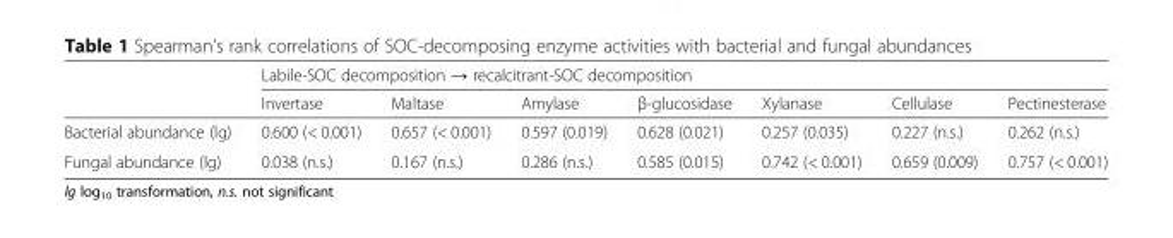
<table><thead><tr><td rowspan="2"></td><td colspan="7">Labile-SOC decomposition → recalcitrant-SOC decomposition</td></tr><tr><td>Invertase</td><td>Maltase</td><td>Amylase</td><td>β-glucosidase</td><td>Xylanase</td><td>Cellulase</td><td>Pectinesterase</td></tr></thead><tbody><tr><td>Bacterial abundance (lg)</td><td>0.600 (&lt; 0.001)</td><td>0.657 (&lt; 0.001)</td><td>0.597 (0.019)</td><td>0.628 (0.021)</td><td>0.257 (0.035)</td><td>0.227 (n.s.)</td><td>0.262 (n.s.)</td></tr><tr><td>Fungal abundance (lg)</td><td>0.038 (n.s.)</td><td>0.167 (n.s.)</td><td>0.286 (n.s.)</td><td>0.585 (0.015)</td><td>0.742 (&lt; 0.001)</td><td>0.659 (0.009)</td><td>0.757 (&lt; 0.001)</td></tr></tbody></table>